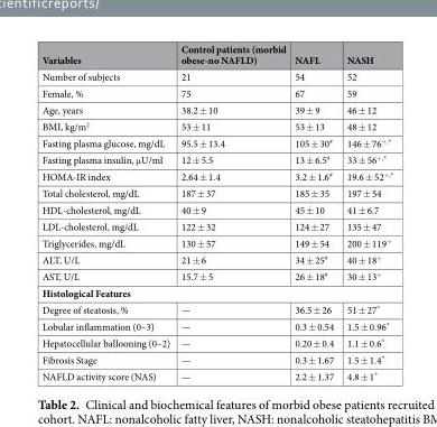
<table><thead><tr><td>Variables</td><td>Control patients (morbid obese-no NAFLD)</td><td>NAFL</td><td>NASH</td></tr></thead><tbody><tr><td>Number of subjects</td><td>21</td><td>54</td><td>52</td></tr><tr><td>Female, %</td><td>75</td><td>67</td><td>59</td></tr><tr><td>Age, years</td><td>38.2 ± 10</td><td>39 ± 9</td><td>46 ± 12</td></tr><tr><td>BMI, kg/m<sup>2</sup></td><td>53 ± 11</td><td>53 ± 13</td><td>48 ± 12</td></tr><tr><td>Fasting plasma glucose, mg/dL</td><td>95.5 ± 13.4</td><td>105 ± 30<sup>#</sup></td><td>146 ± 76<sup>+,*</sup></td></tr><tr><td>Fasting plasma insulin, μU/ml</td><td>12 ± 5.5</td><td>13 ± 6.5<sup>#</sup></td><td>33 ± 56<sup>+,*</sup></td></tr><tr><td>HOMA-IR index</td><td>2.64 ± 1.4</td><td>3.2 ± 1.6<sup>#</sup></td><td>19.6 ± 52<sup>+,*</sup></td></tr><tr><td>Total cholesterol, mg/dL</td><td>187 ± 37</td><td>185 ± 35</td><td>197 ± 54</td></tr><tr><td>HDL-cholesterol, mg/dL</td><td>40 ± 9</td><td>45 ± 10</td><td>41 ± 6.7</td></tr><tr><td>LDL-cholesterol, mg/dL</td><td>122 ± 32</td><td>124 ± 27</td><td>135 ± 47</td></tr><tr><td>Triglycerides, mg/dL</td><td>130 ± 57</td><td>149 ± 54</td><td>200 ± 119<sup>+</sup></td></tr><tr><td>ALT, U/L</td><td>21 ± 6</td><td>34 ± 25<sup>#</sup></td><td>40 ± 18<sup>+</sup></td></tr><tr><td>AST, U/L</td><td>15.7 ± 5</td><td>26 ± 18<sup>#</sup></td><td>30 ± 13<sup>+</sup></td></tr><tr><td colspan="4">Histological Features</td></tr><tr><td>Degree of steatosis, %</td><td>—</td><td>36.5 ± 26</td><td>51 ± 27*</td></tr><tr><td>Lobular inflammation (0–3)</td><td>—</td><td>0.3 ± 0.54</td><td>1.5 ± 0.96*</td></tr><tr><td>Hepatocellular ballooning (0–2)</td><td>—</td><td>0.20 ± 0.4</td><td>1.1 ± 0.6*</td></tr><tr><td>Fibrosis Stage</td><td>—</td><td>0.3 ± 1.67</td><td>1.5 ± 1.4*</td></tr><tr><td>NAFLD activity score (NAS)</td><td>—</td><td>2.2 ± 1.37</td><td>4.8 ± 1*</td></tr></tbody></table>